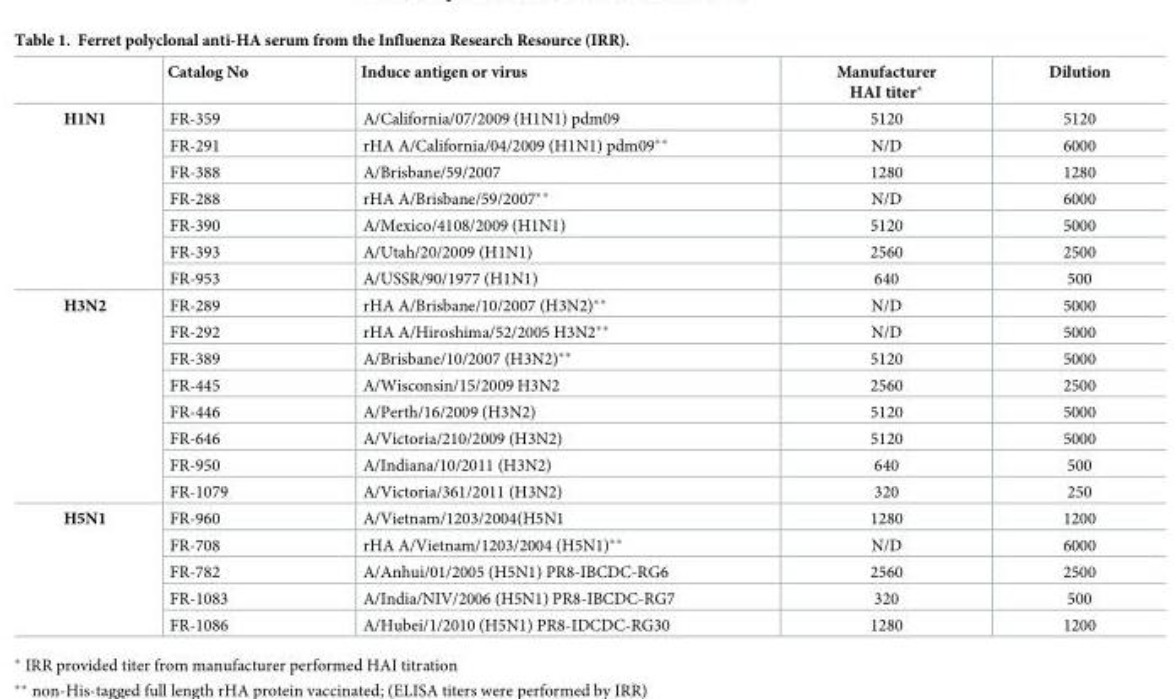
<table><thead><tr><td></td><td>Catalog No</td><td>Induce antigen or virus</td><td>Manufacturer HAI titer*</td><td>Dilution</td></tr></thead><tbody><tr><td rowspan="7">H1N1</td><td>FR-359</td><td>A/California/07/2009 (H1N1) pdm09</td><td>5120</td><td>5120</td></tr><tr><td>FR-291</td><td>rHA A/California/04/2009 (H1N1) pdm09**</td><td>N/D</td><td>6000</td></tr><tr><td>FR-388</td><td>A/Brisbane/59/2007</td><td>1280</td><td>1280</td></tr><tr><td>FR-288</td><td>rHA A/Brisbane/59/2007**</td><td>N/D</td><td>6000</td></tr><tr><td>FR-390</td><td>A/Mexico/4108/2009 (H1N1)</td><td>5120</td><td>5000</td></tr><tr><td>FR-393</td><td>A/Utah/20/2009 (H1N1)</td><td>2560</td><td>2500</td></tr><tr><td>FR-953</td><td>A/USSR/90/1977 (H1N1)</td><td>640</td><td>500</td></tr><tr><td rowspan="8">H3N2</td><td>FR-289</td><td>rHA A/Brisbane/10/2007 (H3N2)**</td><td>N/D</td><td>5000</td></tr><tr><td>FR-292</td><td>rHA A/Hiroshima/52/2005 H3N2**</td><td>N/D</td><td>5000</td></tr><tr><td>FR-389</td><td>A/Brisbane/10/2007 (H3N2)**</td><td>5120</td><td>5000</td></tr><tr><td>FR-445</td><td>A/Wisconsin/15/2009 H3N2</td><td>2560</td><td>2500</td></tr><tr><td>FR-446</td><td>A/Perth/16/2009 (H3N2)</td><td>5120</td><td>5000</td></tr><tr><td>FR-646</td><td>A/Victoria/210/2009 (H3N2)</td><td>5120</td><td>5000</td></tr><tr><td>FR-950</td><td>A/Indiana/10/2011 (H3N2)</td><td>640</td><td>500</td></tr><tr><td>FR-1079</td><td>A/Victoria/361/2011 (H3N2)</td><td>320</td><td>250</td></tr><tr><td rowspan="5">H5N1</td><td>FR-960</td><td>A/Vietnam/1203/2004(H5N1</td><td>1280</td><td>1200</td></tr><tr><td>FR-708</td><td>rHA A/Vietnam/1203/2004 (H5N1)**</td><td>N/D</td><td>6000</td></tr><tr><td>FR-782</td><td>A/Anhui/01/2005 (H5N1) PR8-IBCDC-RG6</td><td>2560</td><td>2500</td></tr><tr><td>FR-1083</td><td>A/India/NIV/2006 (H5N1) PR8-IBCDC-RG7</td><td>320</td><td>500</td></tr><tr><td>FR-1086</td><td>A/Hubei/1/2010 (H5N1) PR8-IDCDC-RG30</td><td>1280</td><td>1200</td></tr></tbody></table>